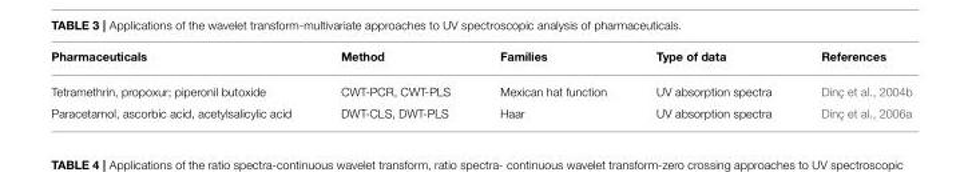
<table><thead><tr><td>Pharmaceuticals</td><td>Method</td><td>Families</td><td>Type of data</td><td>References</td></tr></thead><tbody><tr><td>Tetramethrin, propoxur; piperonil butoxide</td><td>CWT-PCR, CWT-PLS</td><td>Mexican hat function</td><td>UV absorption spectra</td><td>Dinç et al., 2004b</td></tr><tr><td>Paracetamol, ascorbic acid, acetylsalicylic acid</td><td>DWT-CLS, DWT-PLS</td><td>Haar</td><td>UV absorption spectra</td><td>Dinç et al., 2006a</td></tr></tbody></table>